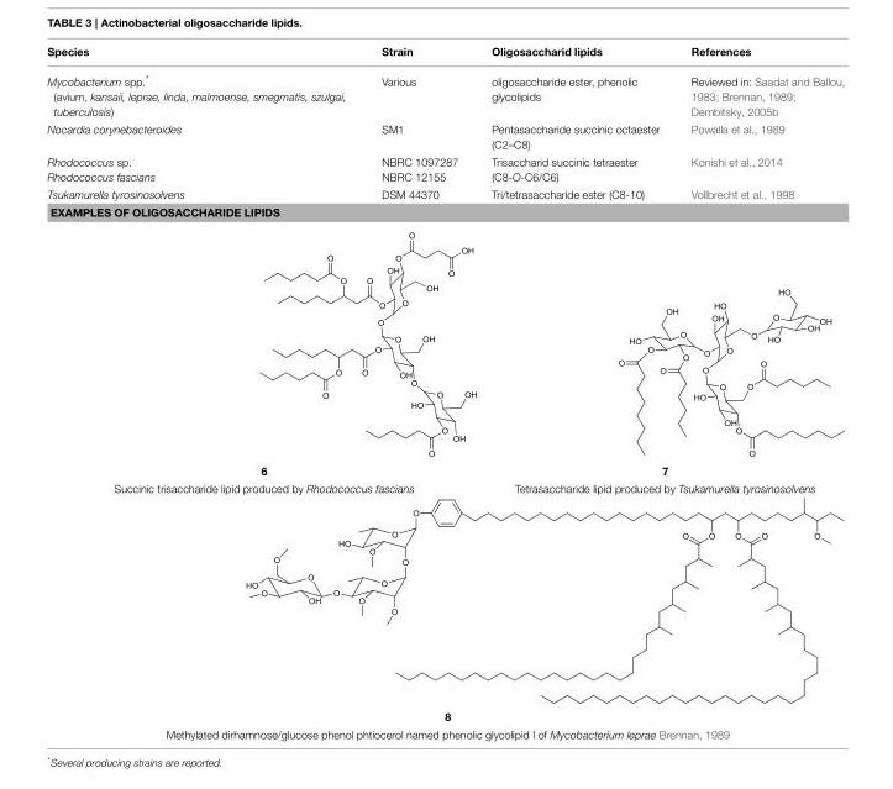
<table><thead><tr><td>Species</td><td>Strain</td><td>Oligosaccharid lipids</td><td>References</td></tr></thead><tbody><tr><td>Mycobacterium spp.* (avium, kansaii, leprae, linda, malmoense, smegmatis, szulgai, tuberculosis)</td><td>Various</td><td>oligosaccharide ester, phenolic glycolipids</td><td>Reviewed in: Saadat and Ballou, 1983; Brennan, 1989; Dembitsky, 2005b</td></tr><tr><td>Nocardia corynebacteroides</td><td>SM1</td><td>Pentasaccharide succinic octaester (C2–C8)</td><td>Powalla et al., 1989</td></tr><tr><td>Rhodococcus sp. Rhodococcus fascians</td><td>NBRC 1097287 NBRC 12155</td><td>Trisaccharid succinic tetraester (C8-O-C6/C6)</td><td>Konishi et al., 2014</td></tr><tr><td>Tsukamurella tyrosinosolvens</td><td>DSM 44370</td><td>Tri/tetrasaccharide ester (C8-10)</td><td>Vollbrecht et al., 1998</td></tr><tr><td colspan="4">EXAMPLES OF OLIGOSACCHARIDE LIPIDS</td></tr><tr><td colspan="2">6</td><td colspan="2">7</td></tr><tr><td colspan="2">Succinic trisaccharide lipid produced by Rhodococcus fascians</td><td colspan="2">Tetrasaccharide lipid produced by Tsukamurella tyrosinosolvens</td></tr><tr><td colspan="4">8</td></tr><tr><td colspan="4">Methylated dirhamnose/glucose phenol phtiocerol named phenolic glycolipid I of Mycobacterium leprae Brennan, 1989</td></tr></tbody></table>